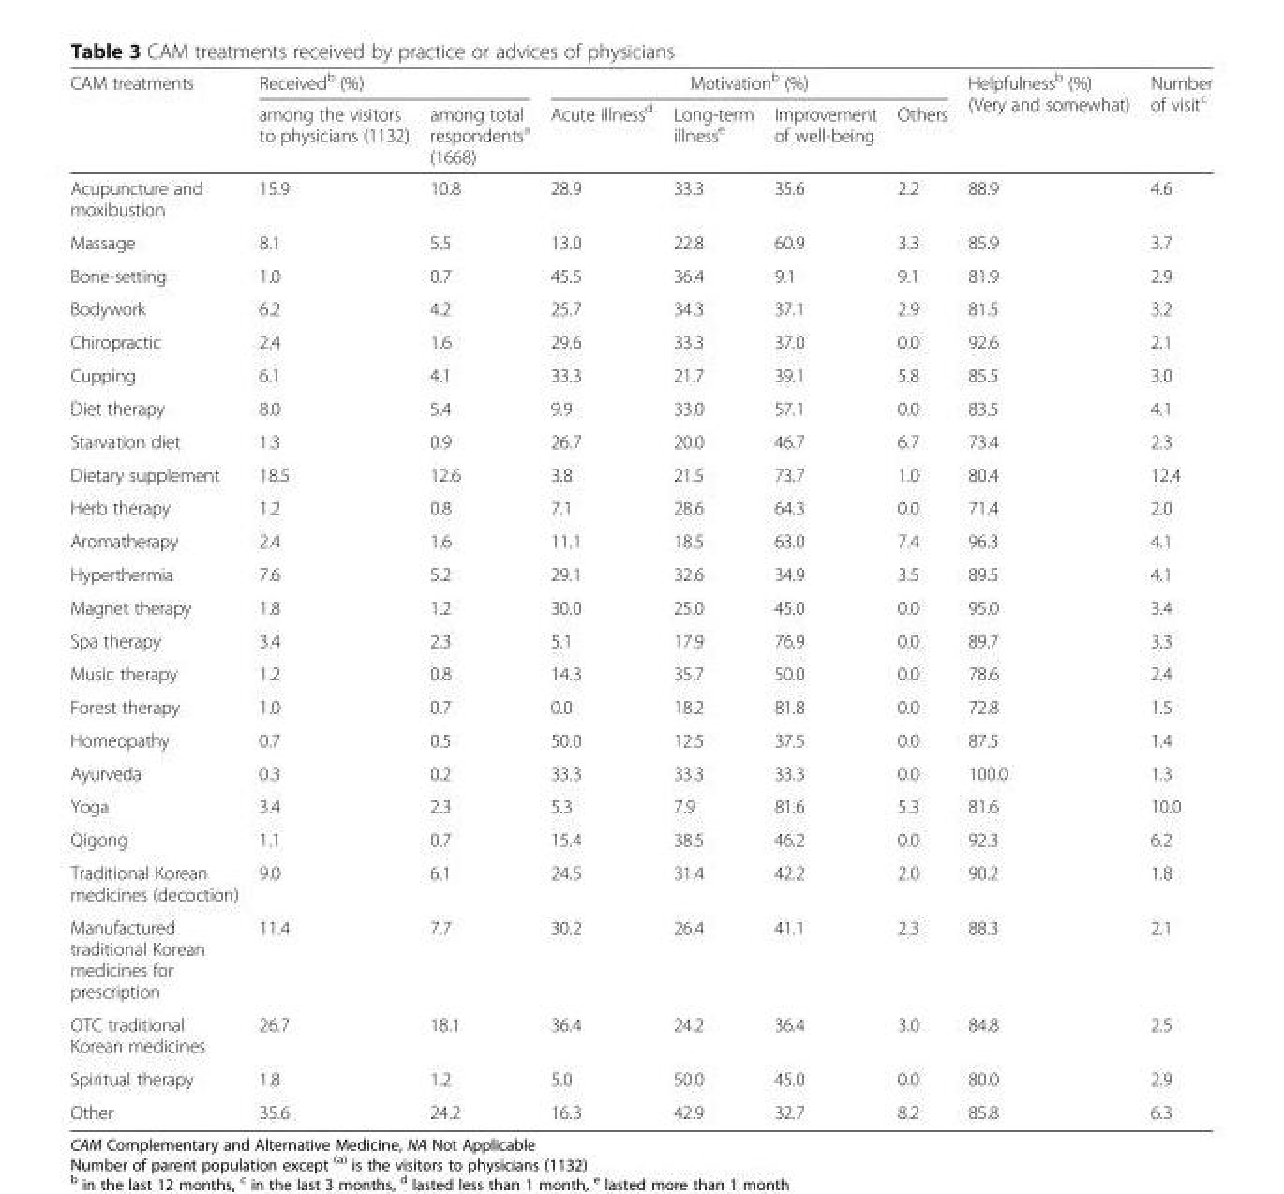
<table><thead><tr><td rowspan="2">CAM treatments</td><td colspan="2">Received<sup>b</sup> (%)</td><td colspan="4">Motivation<sup>b</sup> (%)</td><td rowspan="2">Helpfulness<sup>b</sup> (%) (Very and somewhat)</td><td rowspan="2">Number of visit<sup>c</sup></td></tr><tr><td>among the visitors to physicians (1132)</td><td>among total respondents<sup>a</sup> (1668)</td><td>Acute illness<sup>d</sup></td><td>Long-term illness<sup>e</sup></td><td>Improvement of well-being</td><td>Others</td></tr></thead><tbody><tr><td>Acupuncture and moxibustion</td><td>15.9</td><td>10.8</td><td>28.9</td><td>33.3</td><td>35.6</td><td>2.2</td><td>88.9</td><td>4.6</td></tr><tr><td>Massage</td><td>8.1</td><td>5.5</td><td>13.0</td><td>22.8</td><td>60.9</td><td>3.3</td><td>85.9</td><td>3.7</td></tr><tr><td>Bone-setting</td><td>1.0</td><td>0.7</td><td>45.5</td><td>36.4</td><td>9.1</td><td>9.1</td><td>81.9</td><td>2.9</td></tr><tr><td>Bodywork</td><td>6.2</td><td>4.2</td><td>25.7</td><td>34.3</td><td>37.1</td><td>2.9</td><td>81.5</td><td>3.2</td></tr><tr><td>Chiropractic</td><td>2.4</td><td>1.6</td><td>29.6</td><td>33.3</td><td>37.0</td><td>0.0</td><td>92.6</td><td>2.1</td></tr><tr><td>Cupping</td><td>6.1</td><td>4.1</td><td>33.3</td><td>21.7</td><td>39.1</td><td>5.8</td><td>85.5</td><td>3.0</td></tr><tr><td>Diet therapy</td><td>8.0</td><td>5.4</td><td>9.9</td><td>33.0</td><td>57.1</td><td>0.0</td><td>83.5</td><td>4.1</td></tr><tr><td>Starvation diet</td><td>1.3</td><td>0.9</td><td>26.7</td><td>20.0</td><td>46.7</td><td>6.7</td><td>73.4</td><td>2.3</td></tr><tr><td>Dietary supplement</td><td>18.5</td><td>12.6</td><td>3.8</td><td>21.5</td><td>73.7</td><td>1.0</td><td>80.4</td><td>12.4</td></tr><tr><td>Herb therapy</td><td>1.2</td><td>0.8</td><td>7.1</td><td>28.6</td><td>64.3</td><td>0.0</td><td>71.4</td><td>2.0</td></tr><tr><td>Aromatherapy</td><td>2.4</td><td>1.6</td><td>11.1</td><td>18.5</td><td>63.0</td><td>7.4</td><td>96.3</td><td>4.1</td></tr><tr><td>Hyperthermia</td><td>7.6</td><td>5.2</td><td>29.1</td><td>32.6</td><td>34.9</td><td>3.5</td><td>89.5</td><td>4.1</td></tr><tr><td>Magnet therapy</td><td>1.8</td><td>1.2</td><td>30.0</td><td>25.0</td><td>45.0</td><td>0.0</td><td>95.0</td><td>3.4</td></tr><tr><td>Spa therapy</td><td>3.4</td><td>2.3</td><td>5.1</td><td>17.9</td><td>76.9</td><td>0.0</td><td>89.7</td><td>3.3</td></tr><tr><td>Music therapy</td><td>1.2</td><td>0.8</td><td>14.3</td><td>35.7</td><td>50.0</td><td>0.0</td><td>78.6</td><td>2.4</td></tr><tr><td>Forest therapy</td><td>1.0</td><td>0.7</td><td>0.0</td><td>18.2</td><td>81.8</td><td>0.0</td><td>72.8</td><td>1.5</td></tr><tr><td>Homeopathy</td><td>0.7</td><td>0.5</td><td>50.0</td><td>12.5</td><td>37.5</td><td>0.0</td><td>87.5</td><td>1.4</td></tr><tr><td>Ayurveda</td><td>0.3</td><td>0.2</td><td>33.3</td><td>33.3</td><td>33.3</td><td>0.0</td><td>100.0</td><td>1.3</td></tr><tr><td>Yoga</td><td>3.4</td><td>2.3</td><td>5.3</td><td>7.9</td><td>81.6</td><td>5.3</td><td>81.6</td><td>10.0</td></tr><tr><td>Qigong</td><td>1.1</td><td>0.7</td><td>15.4</td><td>38.5</td><td>46.2</td><td>0.0</td><td>92.3</td><td>6.2</td></tr><tr><td>Traditional Korean medicines (decoction)</td><td>9.0</td><td>6.1</td><td>24.5</td><td>31.4</td><td>42.2</td><td>2.0</td><td>90.2</td><td>1.8</td></tr><tr><td>Manufactured traditional Korean medicines for prescription</td><td>11.4</td><td>7.7</td><td>30.2</td><td>26.4</td><td>41.1</td><td>2.3</td><td>88.3</td><td>2.1</td></tr><tr><td>OTC traditional Korean medicines</td><td>26.7</td><td>18.1</td><td>36.4</td><td>24.2</td><td>36.4</td><td>3.0</td><td>84.8</td><td>2.5</td></tr><tr><td>Spiritual therapy</td><td>1.8</td><td>1.2</td><td>5.0</td><td>50.0</td><td>45.0</td><td>0.0</td><td>80.0</td><td>2.9</td></tr><tr><td>Other</td><td>35.6</td><td>24.2</td><td>16.3</td><td>42.9</td><td>32.7</td><td>8.2</td><td>85.8</td><td>6.3</td></tr></tbody></table>